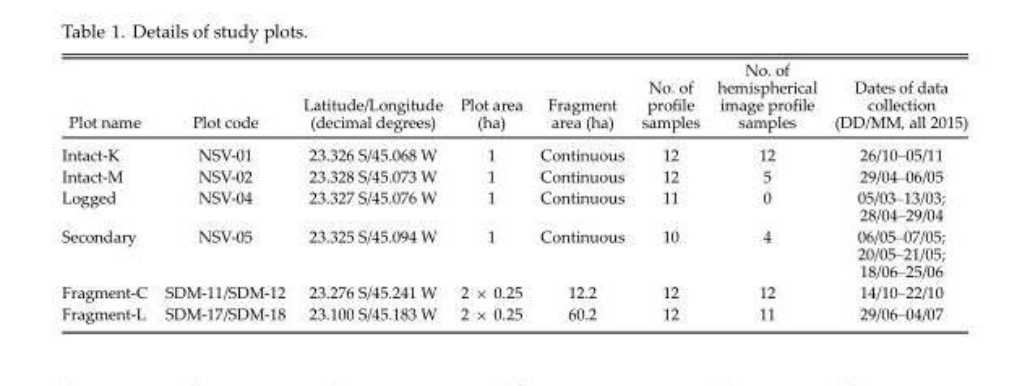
<table><thead><tr><td>Plot name</td><td>Plot code</td><td>Latitude/Longitude (decimal degrees)</td><td>Plot area (ha)</td><td>Fragment area (ha)</td><td>No. of profile samples</td><td>No. of hemispherical image profile samples</td><td>Dates of data collection (DD/MM, all 2015)</td></tr></thead><tbody><tr><td>Intact-K</td><td>NSV-01</td><td>23.326 S/45.068 W</td><td>1</td><td>Continuous</td><td>12</td><td>12</td><td>26/10–05/11</td></tr><tr><td>Intact-M</td><td>NSV-02</td><td>23.328 S/45.073 W</td><td>1</td><td>Continuous</td><td>12</td><td>5</td><td>29/04–06/05</td></tr><tr><td>Logged</td><td>NSV-04</td><td>23.327 S/45.076 W</td><td>1</td><td>Continuous</td><td>11</td><td>0</td><td>05/03–13/03; 28/04–29/04</td></tr><tr><td>Secondary</td><td>NSV-05</td><td>23.325 S/45.094 W</td><td>1</td><td>Continuous</td><td>10</td><td>4</td><td>06/05–07/05; 20/05–21/05; 18/06–25/06</td></tr><tr><td>Fragment-C</td><td>SDM-11/SDM-12</td><td>23.276 S/45.241 W</td><td>2 × 0.25</td><td>12.2</td><td>12</td><td>12</td><td>14/10–22/10</td></tr><tr><td>Fragment-L</td><td>SDM-17/SDM-18</td><td>23.100 S/45.183 W</td><td>2 × 0.25</td><td>60.2</td><td>12</td><td>11</td><td>29/06–04/07</td></tr></tbody></table>